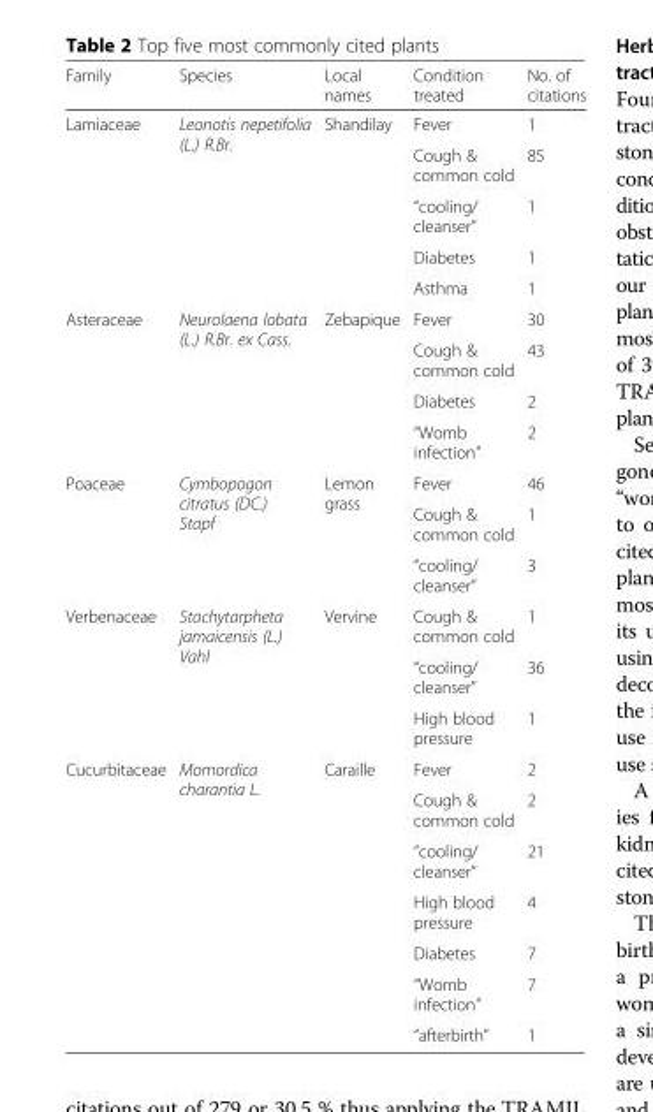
<table><thead><tr><td>Family</td><td>Species</td><td>Local names</td><td>Condition treated</td><td>No. of citations</td></tr></thead><tbody><tr><td rowspan="5">Lamiaceae</td><td rowspan="5">Leonotis nepetifolia (L.) R.Br.</td><td rowspan="5">Shandilay</td><td>Fever</td><td>1</td></tr><tr><td>Cough &amp; common cold</td><td>85</td></tr><tr><td>“cooling/ cleanser”</td><td>1</td></tr><tr><td>Diabetes</td><td>1</td></tr><tr><td>Asthma</td><td>1</td></tr><tr><td rowspan="4">Asteraceae</td><td rowspan="4">Neurolaena lobata (L.) R.Br. ex Cass.</td><td rowspan="4">Zebapique</td><td>Fever</td><td>30</td></tr><tr><td>Cough &amp; common cold</td><td>43</td></tr><tr><td>Diabetes</td><td>2</td></tr><tr><td>“Womb infection”</td><td>2</td></tr><tr><td rowspan="3">Poaceae</td><td rowspan="3">Cymbopogon citratus (DC.) Stapf</td><td rowspan="3">Lemon grass</td><td>Fever</td><td>46</td></tr><tr><td>Cough &amp; common cold</td><td>1</td></tr><tr><td>“cooling/ cleanser”</td><td>3</td></tr><tr><td rowspan="3">Verbenaceae</td><td rowspan="3">Stachytarpheta jamaicensis (L.) Vahl</td><td rowspan="3">Vervine</td><td>Cough &amp; common cold</td><td>1</td></tr><tr><td>“cooling/ cleanser”</td><td>36</td></tr><tr><td>High blood pressure</td><td>1</td></tr><tr><td rowspan="7">Cucurbitaceae</td><td rowspan="7">Momordica charantia L.</td><td rowspan="7">Caraille</td><td>Fever</td><td>2</td></tr><tr><td>Cough &amp; common cold</td><td>2</td></tr><tr><td>“cooling/ cleanser”</td><td>21</td></tr><tr><td>High blood pressure</td><td>4</td></tr><tr><td>Diabetes</td><td>7</td></tr><tr><td>“Womb infection”</td><td>7</td></tr><tr><td>“afterbirth”</td><td>1</td></tr></tbody></table>